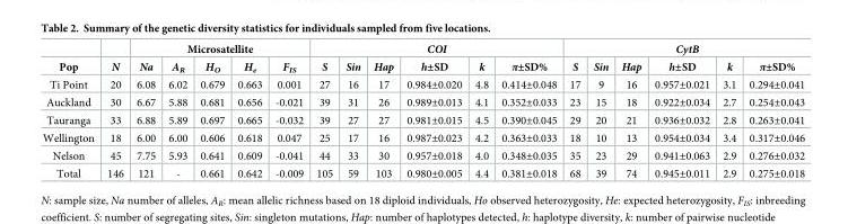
<table><thead><tr><td rowspan="2">Pop</td><td rowspan="2">N</td><td colspan="5">Microsatellite</td><td colspan="6">COI</td><td colspan="6">CytB</td></tr><tr><td>Na</td><td>A<sub>R</sub></td><td>H<sub>O</sub></td><td>H<sub>e</sub></td><td>F<sub>IS</sub></td><td>S</td><td>Sin</td><td>Hap</td><td>h±SD</td><td>k</td><td>π±SD%</td><td>S</td><td>Sin</td><td>Hap</td><td>h±SD</td><td>k</td><td>π±SD%</td></tr></thead><tbody><tr><td>Ti Point</td><td>20</td><td>6.08</td><td>6.02</td><td>0.679</td><td>0.663</td><td>0.001</td><td>27</td><td>16</td><td>17</td><td>0.984±0.020</td><td>4.8</td><td>0.414±0.048</td><td>17</td><td>9</td><td>16</td><td>0.957±0.021</td><td>3.1</td><td>0.294±0.041</td></tr><tr><td>Auckland</td><td>30</td><td>6.67</td><td>5.88</td><td>0.681</td><td>0.656</td><td>-0.021</td><td>39</td><td>31</td><td>26</td><td>0.989±0.013</td><td>4.1</td><td>0.352±0.033</td><td>23</td><td>15</td><td>18</td><td>0.922±0.034</td><td>2.7</td><td>0.254±0.043</td></tr><tr><td>Tauranga</td><td>33</td><td>6.88</td><td>5.89</td><td>0.697</td><td>0.665</td><td>-0.032</td><td>39</td><td>27</td><td>27</td><td>0.981±0.015</td><td>4.5</td><td>0.390±0.045</td><td>29</td><td>20</td><td>21</td><td>0.936±0.032</td><td>2.8</td><td>0.263±0.041</td></tr><tr><td>Wellington</td><td>18</td><td>6.00</td><td>6.00</td><td>0.606</td><td>0.618</td><td>0.047</td><td>25</td><td>17</td><td>16</td><td>0.987±0.023</td><td>4.2</td><td>0.363±0.033</td><td>18</td><td>10</td><td>13</td><td>0.954±0.034</td><td>3.4</td><td>0.317±0.046</td></tr><tr><td>Nelson</td><td>45</td><td>7.75</td><td>5.93</td><td>0.641</td><td>0.609</td><td>-0.041</td><td>44</td><td>33</td><td>30</td><td>0.957±0.018</td><td>4.0</td><td>0.348±0.035</td><td>35</td><td>23</td><td>29</td><td>0.941±0.063</td><td>2.9</td><td>0.276±0.032</td></tr><tr><td>Total</td><td>146</td><td>121</td><td>-</td><td>0.661</td><td>0.642</td><td>-0.009</td><td>105</td><td>59</td><td>103</td><td>0.980±0.005</td><td>4.4</td><td>0.381±0.018</td><td>68</td><td>39</td><td>74</td><td>0.945±0.011</td><td>2.9</td><td>0.275±0.018</td></tr></tbody></table>